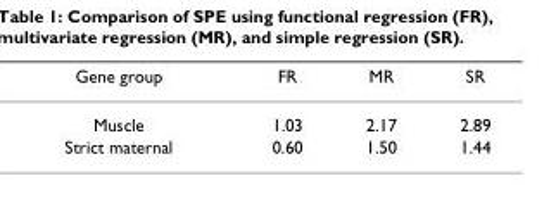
<table><thead><tr><td>Gene group</td><td>FR</td><td>MR</td><td>SR</td></tr></thead><tbody><tr><td>Muscle</td><td>1.03</td><td>2.17</td><td>2.89</td></tr><tr><td>Strict maternal</td><td>0.60</td><td>1.50</td><td>1.44</td></tr></tbody></table>